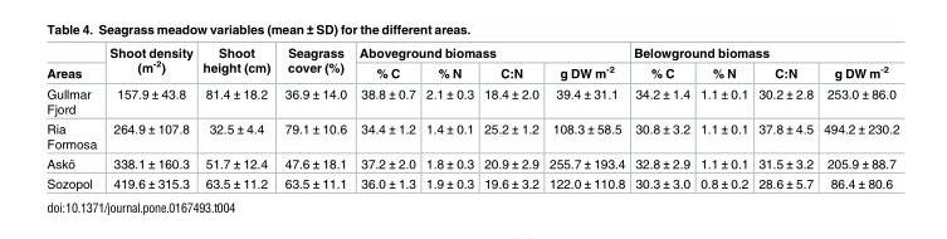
<table><thead><tr><td rowspan="2">Areas</td><td rowspan="2">Shoot density (m<sup>-2</sup>)</td><td rowspan="2">Shoot height (cm)</td><td rowspan="2">Seagrass cover (%)</td><td colspan="4">Aboveground biomass</td><td colspan="4">Belowground biomass</td></tr><tr><td>% C</td><td>% N</td><td>C:N</td><td>g DW m<sup>-2</sup></td><td>% C</td><td>% N</td><td>C:N</td><td>g DW m<sup>-2</sup></td></tr></thead><tbody><tr><td>Gullmar Fjord</td><td>157.9 ± 43.8</td><td>81.4 ± 18.2</td><td>36.9 ± 14.0</td><td>38.8 ± 0.7</td><td>2.1 ± 0.3</td><td>18.4 ± 2.0</td><td>39.4 ± 31.1</td><td>34.2 ± 1.4</td><td>1.1 ± 0.1</td><td>30.2 ± 2.8</td><td>253.0 ± 86.0</td></tr><tr><td>Ria Formosa</td><td>264.9 ± 107.8</td><td>32.5 ± 4.4</td><td>79.1 ± 10.6</td><td>34.4 ± 1.2</td><td>1.4 ± 0.1</td><td>25.2 ± 1.2</td><td>108.3 ± 58.5</td><td>30.8 ± 3.2</td><td>1.1 ± 0.1</td><td>37.8 ± 4.5</td><td>494.2 ± 230.2</td></tr><tr><td>Asko¨</td><td>338.1 ± 160.3</td><td>51.7 ± 12.4</td><td>47.6 ± 18.1</td><td>37.2 ± 2.0</td><td>1.8 ± 0.3</td><td>20.9 ± 2.9</td><td>255.7 ± 193.4</td><td>32.8 ± 2.9</td><td>1.1 ± 0.1</td><td>31.5 ± 3.2</td><td>205.9 ± 88.7</td></tr><tr><td>Sozopol</td><td>419.6 ± 315.3</td><td>63.5 ± 11.2</td><td>63.5 ± 11.1</td><td>36.0 ± 1.3</td><td>1.9 ± 0.3</td><td>19.6 ± 3.2</td><td>122.0 ± 110.8</td><td>30.3 ± 3.0</td><td>0.8 ± 0.2</td><td>28.6 ± 5.7</td><td>86.4 ± 80.6</td></tr></tbody></table>